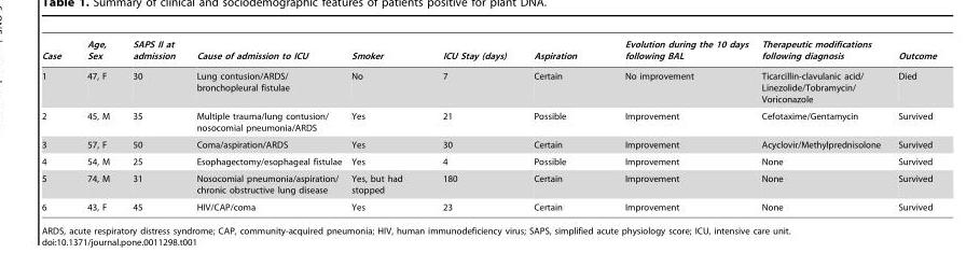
<table><thead><tr><td>Case</td><td>Age, Sex</td><td>SAPS II at admission</td><td>Cause of admission to ICU</td><td>Smoker</td><td>ICU Stay (days)</td><td>Aspiration</td><td>Evolution during the 10 days following BAL</td><td>Therapeutic modifications following diagnosis</td><td>Outcome</td></tr></thead><tbody><tr><td>1</td><td>47, F</td><td>30</td><td>Lung contusion/ARDS/ bronchopleural fistulae</td><td>No</td><td>7</td><td>Certain</td><td>No improvement</td><td>Ticarcillin-clavulanic acid/ Linezolide/Tobramycin/ Voriconazole</td><td>Died</td></tr><tr><td>2</td><td>45, M</td><td>35</td><td>Multiple trauma/lung contusion/ nosocomial pneumonia/ARDS</td><td>Yes</td><td>21</td><td>Possible</td><td>Improvement</td><td>Cefotaxime/Gentamycin</td><td>Survived</td></tr><tr><td>3</td><td>57, F</td><td>50</td><td>Coma/aspiration/ARDS</td><td>Yes</td><td>30</td><td>Certain</td><td>Improvement</td><td>Acyclovir/Methylprednisolone</td><td>Survived</td></tr><tr><td>4</td><td>54, M</td><td>25</td><td>Esophagectomy/esophageal fistulae</td><td>Yes</td><td>4</td><td>Possible</td><td>Improvement</td><td>None</td><td>Survived</td></tr><tr><td>5</td><td>74, M</td><td>31</td><td>Nosocomial pneumonia/aspiration/ chronic obstructive lung disease</td><td>Yes, but had stopped</td><td>180</td><td>Certain</td><td>Improvement</td><td>None</td><td>Survived</td></tr><tr><td>6</td><td>43, F</td><td>45</td><td>HIV/CAP/coma</td><td>Yes</td><td>23</td><td>Certain</td><td>Improvement</td><td>None</td><td>Survived</td></tr></tbody></table>